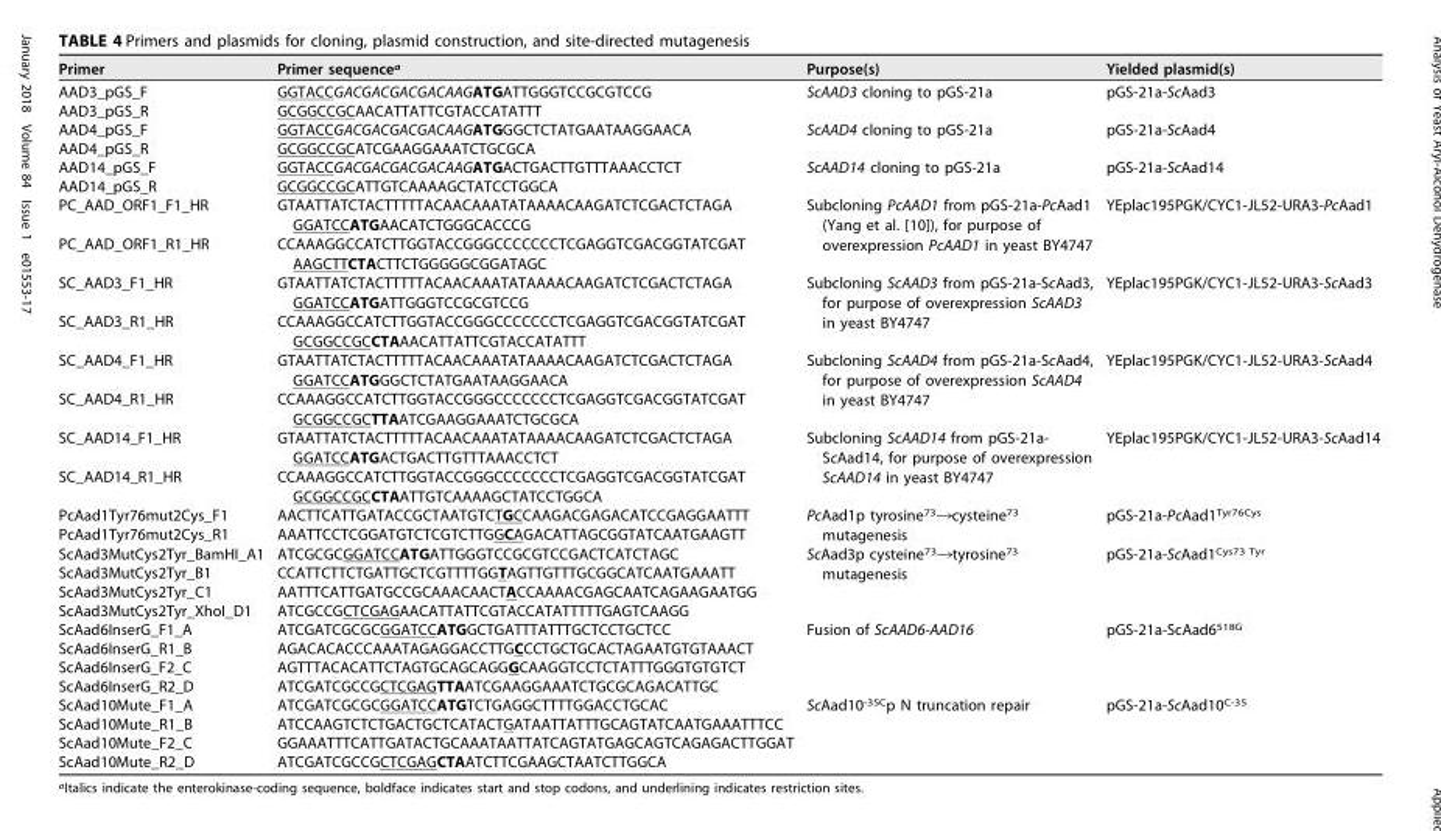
<table><thead><tr><td>Primer</td><td>Primer sequence<sup>a</sup></td><td>Purpose(s)</td><td>Yielded plasmid(s)</td></tr></thead><tbody><tr><td>AAD3_pGS_F</td><td>GGTACCGACGACGACGACAAGATGATTGGGTCCGCGTCCG</td><td rowspan="2">ScAAD3 cloning to pGS-21a</td><td rowspan="2">pGS-21a-ScAad3</td></tr><tr><td>AAD3_pGS_R</td><td>GCGGCCGCAACATTATTCGTACCATATTT</td></tr><tr><td>AAD4_pGS_F</td><td>GGTACCGACGACGACGACAAGATGGGCTCTATGAATAAGGAACA</td><td rowspan="2">ScAAD4 cloning to pGS-21a</td><td rowspan="2">pGS-21a-ScAad4</td></tr><tr><td>AAD4_pGS_R</td><td>GCGGCCGCATCGAAGGAAATCTGCGCA</td></tr><tr><td>AAD14_pGS_F</td><td>GGTACCGACGACGACGACAAGATGACTGACTTGTTTAAACCTCT</td><td rowspan="2">ScAAD14 cloning to pGS-21a</td><td rowspan="2">pGS-21a-ScAad14</td></tr><tr><td>AAD14_pGS_R</td><td>GCGGCCGCATTGTCAAAAGCTATCCTGGCA</td></tr><tr><td>PC_AAD_ORF1_F1_HR</td><td>GTAATTATCTACTTTTTACAACAAATATAAAACAAGATCTCGACTCTAGA GGATCCATGAACATCTGGGCACCCG</td><td rowspan="2">Subcloning PcAAD1 from pGS-21a-PcAad1 (Yang et al. [10]), for purpose of overexpression PcAAD1 in yeast BY4747</td><td rowspan="2">YEplac195PGK/CYC1-JL52-URA3-PcAad1</td></tr><tr><td>PC_AAD_ORF1_R1_HR</td><td>CCAAAGGCCATCTTGGTACCGGGCCCCCCCTCGAGGTCGACGGTATCGAT AAGCTTCTACTTCTGGGGGCGGATAGC</td></tr><tr><td>SC_AAD3_F1_HR</td><td>GTAATTATCTACTTTTTACAACAAATATAAAACAAGATCTCGACTCTAGA GGATCCATGATTGGGTCCGCGTCCG</td><td rowspan="2">Subcloning ScAAD3 from pGS-21a-ScAad3, for purpose of overexpression ScAAD3 in yeast BY4747</td><td rowspan="2">YEplac195PGK/CYC1-JL52-URA3-ScAad3</td></tr><tr><td>SC_AAD3_R1_HR</td><td>CCAAAGGCCATCTTGGTACCGGGCCCCCCCTCGAGGTCGACGGTATCGAT GCGGCCGCCTAAACATTATTCGTACCATATTT</td></tr><tr><td>SC_AAD4_F1_HR</td><td>GTAATTATCTACTTTTTACAACAAATATAAAACAAGATCTCGACTCTAGA GGATCCATGGGCTCTATGAATAAGGAACA</td><td rowspan="2">Subcloning ScAAD4 from pGS-21a-ScAad4, for purpose of overexpression ScAAD4 in yeast BY4747</td><td rowspan="2">YEplac195PGK/CYC1-JL52-URA3-ScAad4</td></tr><tr><td>SC_AAD4_R1_HR</td><td>CCAAAGGCCATCTTGGTACCGGGCCCCCCCTCGAGGTCGACGGTATCGAT GCGGCCGCTTAATCGAAGGAAATCTGCGCA</td></tr><tr><td>SC_AAD14_F1_HR</td><td>GTAATTATCTACTTTTTACAACAAATATAAAACAAGATCTCGACTCTAGA GGATCCATGACTGACTTGTTTAAACCTCT</td><td rowspan="2">Subcloning ScAAD14 from pGS-21a- ScAad14, for purpose of overexpression ScAAD14 in yeast BY4747</td><td rowspan="2">YEplac195PGK/CYC1-JL52-URA3-ScAad14</td></tr><tr><td>SC_AAD14_R1_HR</td><td>CCAAAGGCCATCTTGGTACCGGGCCCCCCCTCGAGGTCGACGGTATCGAT GCGGCCGCCTAATTGTCAAAAGCTATCCTGGCA</td></tr><tr><td>PcAad1Tyr76mut2Cys_F1</td><td>AACTTCATTGATACCGCTAATGTCTGCCAAGACGAGACATCCGAGGAATTT</td><td rowspan="2">PcAad1p tyrosine<sup>73</sup>→cysteine<sup>73</sup> mutagenesis</td><td rowspan="2">pGS-21a-PcAad1<sup>Tyr76Cys</sup></td></tr><tr><td>PcAad1Tyr76mut2Cys_R1</td><td>AAATTCCTCGGATGTCTCGTCTTGGCAGACATTAGCGGTATCAATGAAGTT</td></tr><tr><td>ScAad3MutCys2Tyr_BamHI_A1</td><td>ATCGCGCGGATCCATGATTGGGTCCGCGTCCGACTCATCTAGC</td><td rowspan="4">ScAad3p cysteine<sup>73</sup>→tyrosine<sup>73</sup> mutagenesis</td><td rowspan="4">pGS-21a-ScAad1<sup>Cys73 Tyr</sup></td></tr><tr><td>ScAad3MutCys2Tyr_B1</td><td>CCATTCTTCTGATTGCTCGTTTTGGTAGTTGTTTGCGGCATCAATGAAATT</td></tr><tr><td>ScAad3MutCys2Tyr_C1</td><td>AATTTCATTGATGCCGCAAACAACTACCAAAACGAGCAATCAGAAGAATGG</td></tr><tr><td>ScAad3MutCys2Tyr_XhoI_D1</td><td>ATCGCCGCTCGAGAACATTATTCGTACCATATTTTTGAGTCAAGG</td></tr><tr><td>ScAad6InserG_F1_A</td><td>ATCGATCGCGCGGATCCATGGCTGATTTATTTGCTCCTGCTCC</td><td rowspan="4">Fusion of ScAAD6-AAD16</td><td rowspan="4">pGS-21a-ScAad6<sup>518G</sup></td></tr><tr><td>ScAad6InserG_R1_B</td><td>AGACACACCCAAATAGAGGACCTTGCCCTGCTGCACTAGAATGTGTAAACT</td></tr><tr><td>ScAad6InserG_F2_C</td><td>AGTTTACACATTCTAGTGCAGCAGGGCAAGGTCCTCTATTTGGGTGTGTCT</td></tr><tr><td>ScAad6InserG_R2_D</td><td>ATCGATCGCCGCTCGAGTTAATCGAAGGAAATCTGCGCAGACATTGC</td></tr><tr><td>ScAad10Mute_F1_A</td><td>ATCGATCGCGCGGATCCATGTCTGAGGCTTTTGGACCTGCAC</td><td rowspan="4">ScAad10<sup>-35C</sup>p N truncation repair</td><td rowspan="4">pGS-21a-ScAad10<sup>C-35</sup></td></tr><tr><td>ScAad10Mute_R1_B</td><td>ATCCAAGTCTCTGACTGCTCATACTGATAATTATTTGCAGTATCAATGAAATTTCC</td></tr><tr><td>ScAad10Mute_F2_C</td><td>GGAAATTTCATTGATACTGCAAATAATTATCAGTATGAGCAGTCAGAGACTTGGAT</td></tr><tr><td>ScAad10Mute_R2_D</td><td>ATCGATCGCCGCTCGAGCTAATCTTCGAAGCTAATCTTGGCA</td></tr></tbody></table>